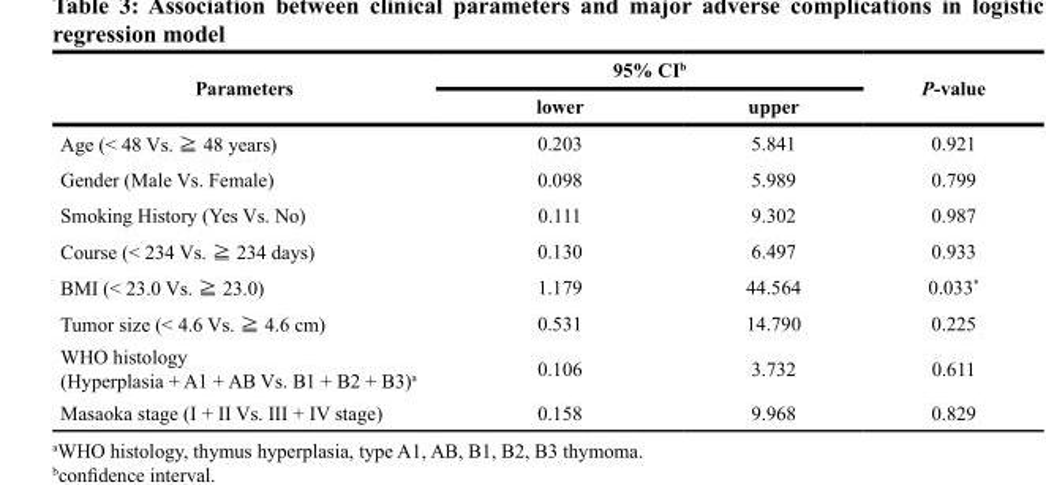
<table><thead><tr><td rowspan="2">Parameters</td><td colspan="2">95% CI<sup>b</sup></td><td rowspan="2">P-value</td></tr><tr><td>lower</td><td>upper</td></tr></thead><tbody><tr><td>Age (&lt; 48 Vs. ≧ 48 years)</td><td>0.203</td><td>5.841</td><td>0.921</td></tr><tr><td>Gender (Male Vs. Female)</td><td>0.098</td><td>5.989</td><td>0.799</td></tr><tr><td>Smoking History (Yes Vs. No)</td><td>0.111</td><td>9.302</td><td>0.987</td></tr><tr><td>Course (&lt; 234 Vs. ≧ 234 days)</td><td>0.130</td><td>6.497</td><td>0.933</td></tr><tr><td>BMI (&lt; 23.0 Vs. ≧ 23.0)</td><td>1.179</td><td>44.564</td><td>0.033*</td></tr><tr><td>Tumor size (&lt; 4.6 Vs. ≧ 4.6 cm)</td><td>0.531</td><td>14.790</td><td>0.225</td></tr><tr><td>WHO histology (Hyperplasia + A1 + AB Vs. B1 + B2 + B3)<sup>a</sup></td><td>0.106</td><td>3.732</td><td>0.611</td></tr><tr><td>Masaoka stage (I + II Vs. III + IV stage)</td><td>0.158</td><td>9.968</td><td>0.829</td></tr></tbody></table>